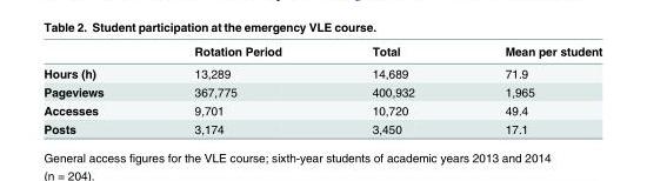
<table><thead><tr><td></td><td>Rotation Period</td><td>Total</td><td>Mean per student</td></tr></thead><tbody><tr><td>Hours (h)</td><td>13,289</td><td>14,689</td><td>71.9</td></tr><tr><td>Pageviews</td><td>367,775</td><td>400,932</td><td>1,965</td></tr><tr><td>Accesses</td><td>9,701</td><td>10,720</td><td>49.4</td></tr><tr><td>Posts</td><td>3,174</td><td>3,450</td><td>17.1</td></tr></tbody></table>